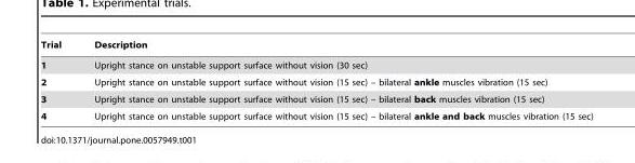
<table><thead><tr><td>Trial</td><td>Description</td></tr></thead><tbody><tr><td>1</td><td>Upright stance on unstable support surface without vision (30 sec)</td></tr><tr><td>2</td><td>Upright stance on unstable support surface without vision (15 sec) – bilateral ankle muscles vibration (15 sec)</td></tr><tr><td>3</td><td>Upright stance on unstable support surface without vision (15 sec) – bilateral back muscles vibration (15 sec)</td></tr><tr><td>4</td><td>Upright stance on unstable support surface without vision (15 sec) – bilateral ankle and back muscles vibration (15 sec)</td></tr></tbody></table>